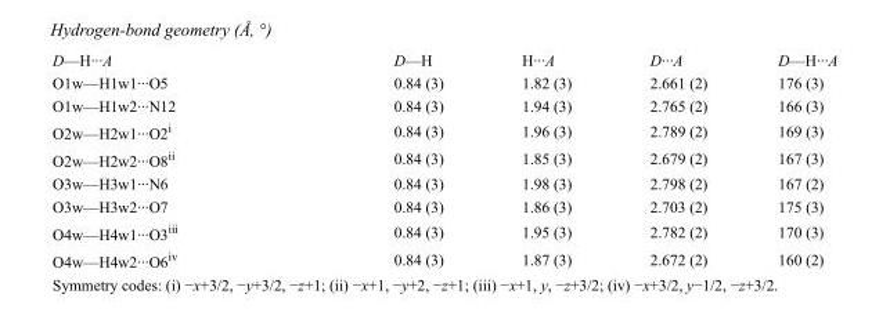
<table><tbody><tr><td>D—H···A</td><td>D—H</td><td>H···A</td><td>D···A</td><td>D—H···A</td></tr><tr><td>O1w—H1w1···O5</td><td>0.84 (3)</td><td>1.82 (3)</td><td>2.661 (2)</td><td>176 (3)</td></tr><tr><td>O1w—H1w2···N12</td><td>0.84 (3)</td><td>1.94 (3)</td><td>2.765 (2)</td><td>166 (3)</td></tr><tr><td>O2w—H2w1···O2<sup>i</sup></td><td>0.84 (3)</td><td>1.96 (3)</td><td>2.789 (2)</td><td>169 (3)</td></tr><tr><td>O2w—H2w2···O8<sup>ii</sup></td><td>0.84 (3)</td><td>1.85 (3)</td><td>2.679 (2)</td><td>167 (3)</td></tr><tr><td>O3w—H3w1···N6</td><td>0.84 (3)</td><td>1.98 (3)</td><td>2.798 (2)</td><td>167 (2)</td></tr><tr><td>O3w—H3w2···O7</td><td>0.84 (3)</td><td>1.86 (3)</td><td>2.703 (2)</td><td>175 (3)</td></tr><tr><td>O4w—H4w1···O3<sup>iii</sup></td><td>0.84 (3)</td><td>1.95 (3)</td><td>2.782 (2)</td><td>170 (3)</td></tr><tr><td>O4w—H4w2···O6<sup>iv</sup></td><td>0.84 (3)</td><td>1.87 (3)</td><td>2.672 (2)</td><td>160 (2)</td></tr></tbody></table>